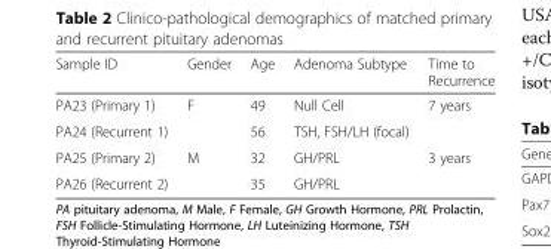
<table><thead><tr><td>Sample ID</td><td>Gender</td><td>Age</td><td>Adenoma Subtype</td><td>Time to Recurrence</td></tr></thead><tbody><tr><td>PA23 (Primary 1)</td><td rowspan="2">F</td><td>49</td><td>Null Cell</td><td rowspan="2">7 years</td></tr><tr><td>PA24 (Recurrent 1)</td><td>56</td><td>TSH, FSH/LH (focal)</td></tr><tr><td>PA25 (Primary 2)</td><td rowspan="2">M</td><td>32</td><td>GH/PRL</td><td rowspan="2">3 years</td></tr><tr><td>PA26 (Recurrent 2)</td><td>35</td><td>GH/PRL</td></tr></tbody></table>